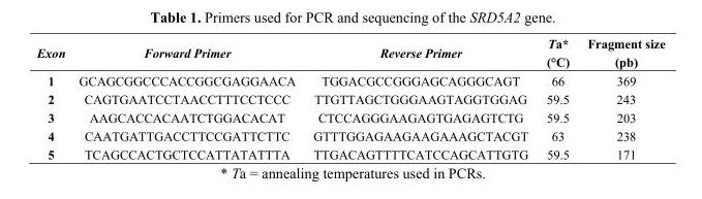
<table><thead><tr><td>Exon</td><td>Forward Primer</td><td>Reverse Primer</td><td>Ta* (°C)</td><td>Fragment size (pb)</td></tr></thead><tbody><tr><td>1</td><td>GCAGCGGCCCACCGGCGAGGAACA</td><td>TGGACGCCGGGAGCAGGGCAGT</td><td>66</td><td>369</td></tr><tr><td>2</td><td>CAGTGAATCCTAACCTTTCCTCCC</td><td>TTGTTAGCTGGGAAGTAGGTGGAG</td><td>59.5</td><td>243</td></tr><tr><td>3</td><td>AAGCACCACAATCTGGACACAT</td><td>CTCCAGGGAAGAGTGAGAGTCTG</td><td>59.5</td><td>203</td></tr><tr><td>4</td><td>CAATGATTGACCTTCCGATTCTTC</td><td>GTTTGGAGAAGAAGAAAGCTACGT</td><td>63</td><td>238</td></tr><tr><td>5</td><td>TCAGCCACTGCTCCATTATATTTA</td><td>TTGACAGTTTTCATCCAGCATTGTG</td><td>59.5</td><td>171</td></tr></tbody></table>